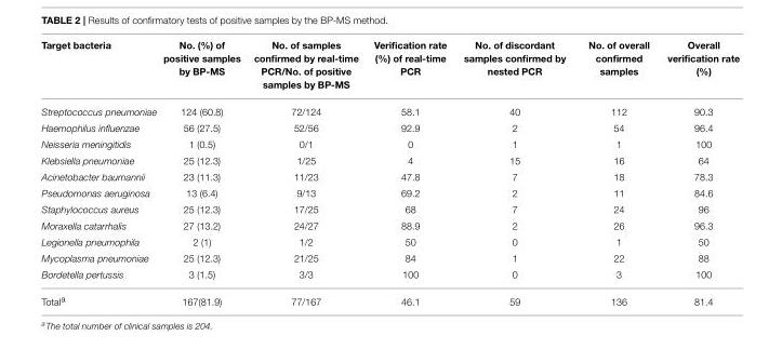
<table><thead><tr><td>Target bacteria</td><td>No. (%) of positive samples by BP-MS</td><td>No. of samples confirmed by real-time PCR/No. of positive samples by BP-MS</td><td>Verification rate (%) of real-time PCR</td><td>No. of discordant samples confirmed by nested PCR</td><td>No. of overall confirmed samples</td><td>Overall verification rate (%)</td></tr></thead><tbody><tr><td>Streptococcus pneumoniae</td><td>124 (60.8)</td><td>72/124</td><td>58.1</td><td>40</td><td>112</td><td>90.3</td></tr><tr><td>Haemophilus influenzae</td><td>56 (27.5)</td><td>52/56</td><td>92.9</td><td>2</td><td>54</td><td>96.4</td></tr><tr><td>Neisseria meningitidis</td><td>1 (0.5)</td><td>0/1</td><td>0</td><td>1</td><td>1</td><td>100</td></tr><tr><td>Klebsiella pneumoniae</td><td>25 (12.3)</td><td>1/25</td><td>4</td><td>15</td><td>16</td><td>64</td></tr><tr><td>Acinetobacter baumannii</td><td>23 (11.3)</td><td>11/23</td><td>47.8</td><td>7</td><td>18</td><td>78.3</td></tr><tr><td>Pseudomonas aeruginosa</td><td>13 (6.4)</td><td>9/13</td><td>69.2</td><td>2</td><td>11</td><td>84.6</td></tr><tr><td>Staphylococcus aureus</td><td>25 (12.3)</td><td>17/25</td><td>68</td><td>7</td><td>24</td><td>96</td></tr><tr><td>Moraxella catarrhalis</td><td>27 (13.2)</td><td>24/27</td><td>88.9</td><td>2</td><td>26</td><td>96.3</td></tr><tr><td>Legionella pneumophila</td><td>2 (1)</td><td>1/2</td><td>50</td><td>0</td><td>1</td><td>50</td></tr><tr><td>Mycoplasma pneumoniae</td><td>25 (12.3)</td><td>21/25</td><td>84</td><td>1</td><td>22</td><td>88</td></tr><tr><td>Bordetella pertussis</td><td>3 (1.5)</td><td>3/3</td><td>100</td><td>0</td><td>3</td><td>100</td></tr><tr><td>Total<sup>a</sup></td><td>167(81.9)</td><td>77/167</td><td>46.1</td><td>59</td><td>136</td><td>81.4</td></tr></tbody></table>